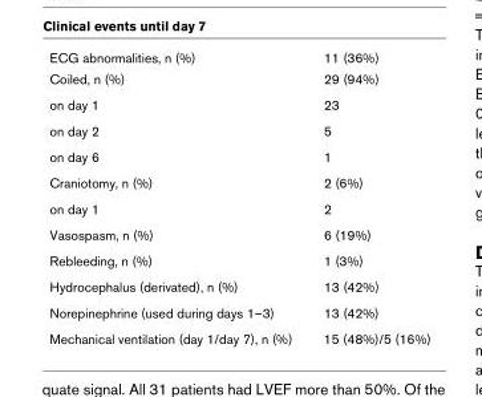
<table><tbody><tr><td>ECG abnormalities, n (%)</td><td>11 (36%)</td></tr><tr><td>Coiled, n (%)</td><td>29 (94%)</td></tr><tr><td>on day 1</td><td>23</td></tr><tr><td>on day 2</td><td>5</td></tr><tr><td>on day 6</td><td>1</td></tr><tr><td>Craniotomy, n (%)</td><td>2 (6%)</td></tr><tr><td>on day 1</td><td>2</td></tr><tr><td>Vasospasm, n (%)</td><td>6 (19%)</td></tr><tr><td>Rebleeding, n (%)</td><td>1 (3%)</td></tr><tr><td>Hydrocephalus (derivated), n (%)</td><td>13 (42%)</td></tr><tr><td>Norepinephrine (used during days 1–3)</td><td>13 (42%)</td></tr><tr><td>Mechanical ventilation (day 1/day 7), n (%)</td><td>15 (48%)/5 (16%)</td></tr></tbody></table>